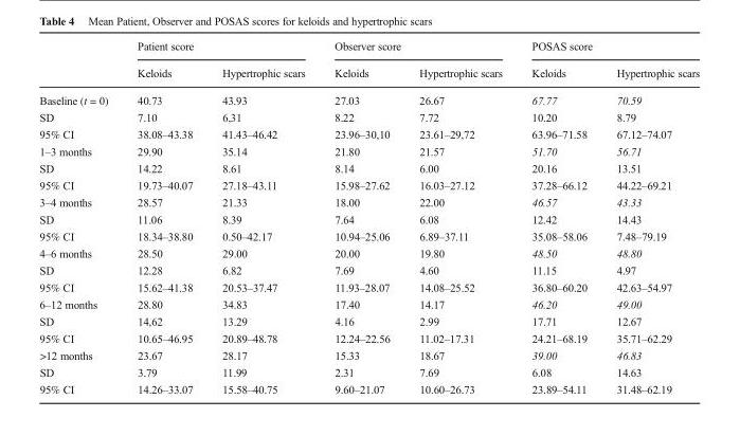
<table><thead><tr><td rowspan="2"></td><td colspan="2">Patient score</td><td colspan="2">Observer score</td><td colspan="2">POSAS score</td></tr><tr><td>Keloids</td><td>Hypertrophic scars</td><td>Keloids</td><td>Hypertrophic scars</td><td>Keloids</td><td>Hypertrophic scars</td></tr></thead><tbody><tr><td>Baseline (t = 0)</td><td>40.73</td><td>43.93</td><td>27.03</td><td>26.67</td><td>67.77</td><td>70.59</td></tr><tr><td>SD</td><td>7.10</td><td>6,31</td><td>8.22</td><td>7.72</td><td>10.20</td><td>8.79</td></tr><tr><td>95% CI</td><td>38.08–43.38</td><td>41.43–46.42</td><td>23.96–30,10</td><td>23.61–29,72</td><td>63.96–71.58</td><td>67.12–74.07</td></tr><tr><td>1–3 months</td><td>29.90</td><td>35.14</td><td>21.80</td><td>21.57</td><td>51.70</td><td>56.71</td></tr><tr><td>SD</td><td>14.22</td><td>8.61</td><td>8.14</td><td>6.00</td><td>20.16</td><td>13.51</td></tr><tr><td>95% CI</td><td>19.73–40.07</td><td>27.18–43.11</td><td>15.98–27.62</td><td>16.03–27.12</td><td>37.28–66.12</td><td>44.22–69.21</td></tr><tr><td>3–4 months</td><td>28.57</td><td>21.33</td><td>18.00</td><td>22.00</td><td>46.57</td><td>43.33</td></tr><tr><td>SD</td><td>11.06</td><td>8.39</td><td>7.64</td><td>6.08</td><td>12.42</td><td>14.43</td></tr><tr><td>95% CI</td><td>18.34–38.80</td><td>0.50–42.17</td><td>10.94–25.06</td><td>6.89–37.11</td><td>35.08–58.06</td><td>7.48–79.19</td></tr><tr><td>4–6 months</td><td>28.50</td><td>29.00</td><td>20.00</td><td>19.80</td><td>48.50</td><td>48.80</td></tr><tr><td>SD</td><td>12.28</td><td>6.82</td><td>7.69</td><td>4.60</td><td>11.15</td><td>4.97</td></tr><tr><td>95% CI</td><td>15.62–41.38</td><td>20.53–37.47</td><td>11.93–28.07</td><td>14.08–25.52</td><td>36.80–60.20</td><td>42.63–54.97</td></tr><tr><td>6–12 months</td><td>28.80</td><td>34.83</td><td>17.40</td><td>14.17</td><td>46.20</td><td>49.00</td></tr><tr><td>SD</td><td>14,62</td><td>13.29</td><td>4.16</td><td>2.99</td><td>17.71</td><td>12.67</td></tr><tr><td>95% CI</td><td>10.65–46.95</td><td>20.89–48.78</td><td>12.24–22.56</td><td>11.02–17.31</td><td>24.21–68.19</td><td>35.71–62.29</td></tr><tr><td>&gt;12 months</td><td>23.67</td><td>28.17</td><td>15.33</td><td>18.67</td><td>39.00</td><td>46.83</td></tr><tr><td>SD</td><td>3.79</td><td>11.99</td><td>2.31</td><td>7.69</td><td>6.08</td><td>14.63</td></tr><tr><td>95% CI</td><td>14.26–33.07</td><td>15.58–40.75</td><td>9.60–21.07</td><td>10.60–26.73</td><td>23.89–54.11</td><td>31.48–62.19</td></tr></tbody></table>